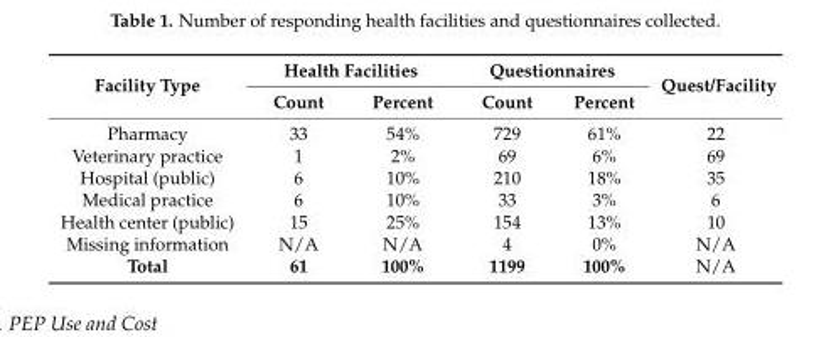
<table><thead><tr><td rowspan="2">Facility Type</td><td colspan="2">Health Facilities</td><td colspan="2">Questionnaires</td><td rowspan="2">Quest/Facility</td></tr><tr><td>Count</td><td>Percent</td><td>Count</td><td>Percent</td></tr></thead><tbody><tr><td>Pharmacy</td><td>33</td><td>54%</td><td>729</td><td>61%</td><td>22</td></tr><tr><td>Veterinary practice</td><td>1</td><td>2%</td><td>69</td><td>6%</td><td>69</td></tr><tr><td>Hospital (public)</td><td>6</td><td>10%</td><td>210</td><td>18%</td><td>35</td></tr><tr><td>Medical practice</td><td>6</td><td>10%</td><td>33</td><td>3%</td><td>6</td></tr><tr><td>Health center (public)</td><td>15</td><td>25%</td><td>154</td><td>13%</td><td>10</td></tr><tr><td>Missing information</td><td>N/A</td><td>N/A</td><td>4</td><td>0%</td><td>N/A</td></tr><tr><td>Total</td><td>61</td><td>100%</td><td>1199</td><td>100%</td><td>N/A</td></tr></tbody></table>